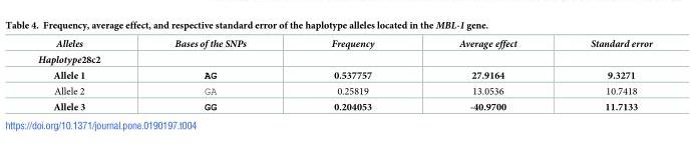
<table><thead><tr><td>Alleles</td><td>Bases of the SNPs</td><td>Frequency</td><td>Average effect</td><td>Standard error</td></tr></thead><tbody><tr><td colspan="5">Haplotype28c2</td></tr><tr><td>Allele 1</td><td>AG</td><td>0.537757</td><td>27.9164</td><td>9.3271</td></tr><tr><td>Allele 2</td><td>GA</td><td>0.25819</td><td>13.0536</td><td>10.7418</td></tr><tr><td>Allele 3</td><td>GG</td><td>0.204053</td><td>-40.9700</td><td>11.7133</td></tr></tbody></table>